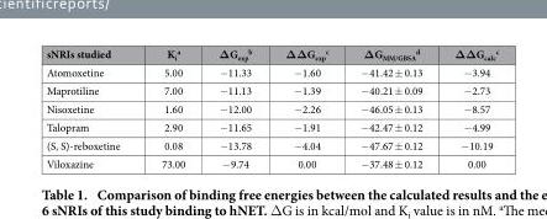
<table><thead><tr><td>sNRIs studied</td><td>K<sub>i</sub> <sup>a</sup></td><td>ΔG<sub>exp</sub> <sup>b</sup></td><td>ΔΔG<sub>exp</sub> <sup>c</sup></td><td>ΔG<sub>MM/GBSA</sub> <sup>d</sup></td><td>ΔΔG<sub>calc</sub> <sup>c</sup></td></tr></thead><tbody><tr><td>Atomoxetine</td><td>5.00</td><td>− 11.33</td><td>− 1.60</td><td>− 41.42 ± 0.13</td><td>− 3.94</td></tr><tr><td>Maprotiline</td><td>7.00</td><td>− 11.13</td><td>− 1.39</td><td>− 40.21 ± 0.09</td><td>− 2.73</td></tr><tr><td>Nisoxetine</td><td>1.60</td><td>− 12.00</td><td>− 2.26</td><td>− 46.05 ± 0.13</td><td>− 8.57</td></tr><tr><td>Talopram</td><td>2.90</td><td>− 11.65</td><td>− 1.91</td><td>− 42.47 ± 0.12</td><td>− 4.99</td></tr><tr><td>(S, S)-reboxetine</td><td>0.08</td><td>− 13.78</td><td>− 4.04</td><td>− 47.67 ± 0.12</td><td>− 10.19</td></tr><tr><td>Viloxazine</td><td>73.00</td><td>− 9.74</td><td>0.00</td><td>− 37.48 ± 0.12</td><td>0.00</td></tr></tbody></table>